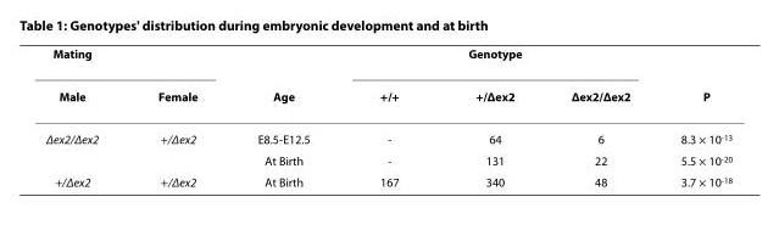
<table><thead><tr><td rowspan="2">Mating Male</td><td rowspan="2">Female</td><td rowspan="2">Age</td><td rowspan="2">+/+</td><td rowspan="2">Genotype +/Δex2</td><td rowspan="2">Δex2/Δex2</td><td rowspan="2">P</td></tr><tr></tr></thead><tbody><tr><td rowspan="2">Δex2/Δex2</td><td>+/Δex2</td><td>E8.5-E12.5</td><td>-</td><td>64</td><td>6</td><td>8.3 × 10<sup>-13</sup></td></tr><tr><td></td><td>At Birth</td><td>-</td><td>131</td><td>22</td><td>5.5 × 10<sup>-20</sup></td></tr><tr><td>+/Δex2</td><td>+/Δex2</td><td>At Birth</td><td>167</td><td>340</td><td>48</td><td>3.7 × 10<sup>-18</sup></td></tr></tbody></table>